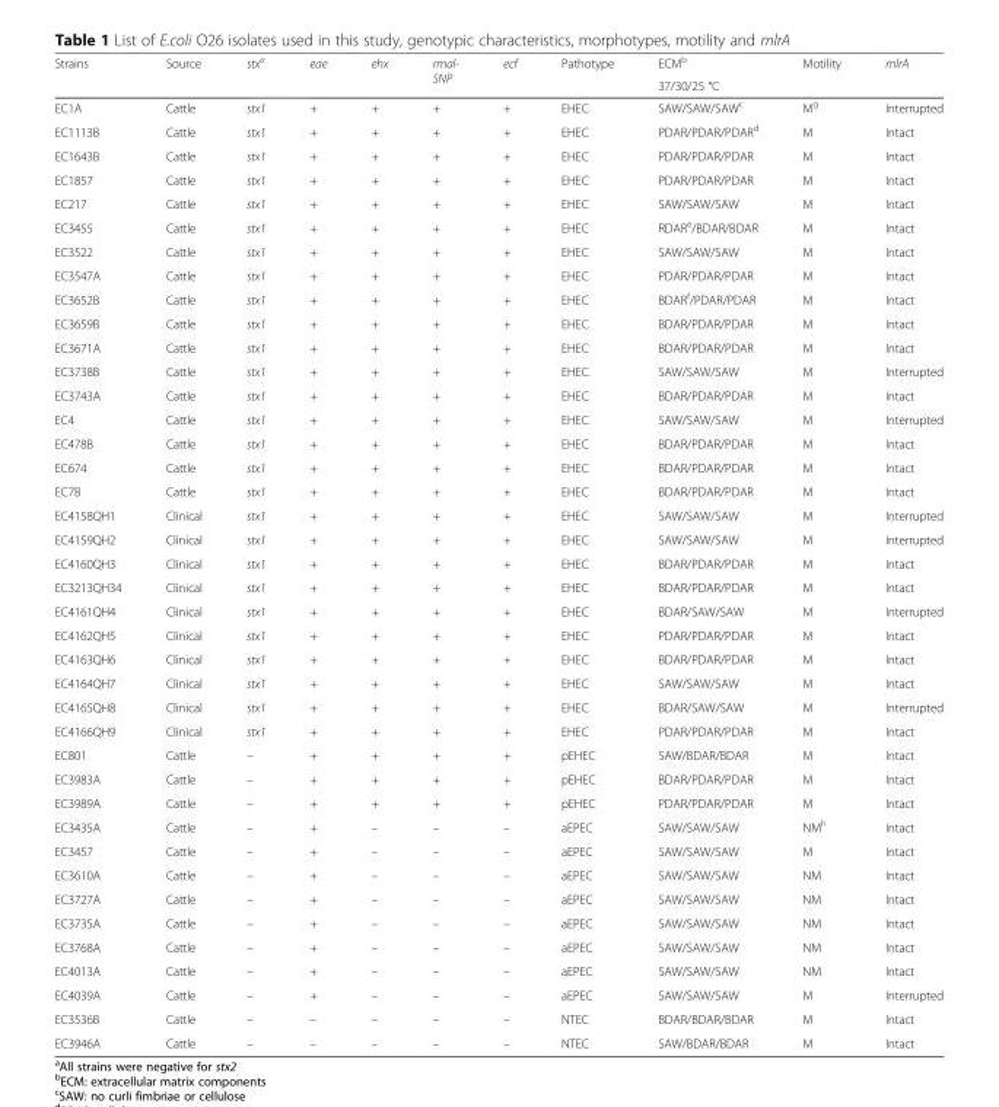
<table><thead><tr><td rowspan="2">Strains</td><td rowspan="2">Source</td><td rowspan="2">stx<sup>a</sup></td><td rowspan="2">eae</td><td rowspan="2">ehx</td><td rowspan="2">rmal- SNP</td><td rowspan="2">ecf</td><td rowspan="2">Pathotype</td><td rowspan="2">ECM<sup>b</sup> 37/30/25 °C</td><td rowspan="2">Motility</td><td rowspan="2">mlrA</td></tr><tr></tr></thead><tbody><tr><td>EC1A</td><td>Cattle</td><td>stx1</td><td>+</td><td>+</td><td>+</td><td>+</td><td>EHEC</td><td>SAW/SAW/SAW<sup>c</sup></td><td>M<sup>g</sup></td><td>Interrupted</td></tr><tr><td>EC1113B</td><td>Cattle</td><td>stx1</td><td>+</td><td>+</td><td>+</td><td>+</td><td>EHEC</td><td>PDAR/PDAR/PDAR<sup>d</sup></td><td>M</td><td>Intact</td></tr><tr><td>EC1643B</td><td>Cattle</td><td>stx1</td><td>+</td><td>+</td><td>+</td><td>+</td><td>EHEC</td><td>PDAR/PDAR/PDAR</td><td>M</td><td>Intact</td></tr><tr><td>EC1857</td><td>Cattle</td><td>stx1</td><td>+</td><td>+</td><td>+</td><td>+</td><td>EHEC</td><td>PDAR/PDAR/PDAR</td><td>M</td><td>Intact</td></tr><tr><td>EC217</td><td>Cattle</td><td>stx1</td><td>+</td><td>+</td><td>+</td><td>+</td><td>EHEC</td><td>SAW/SAW/SAW</td><td>M</td><td>Intact</td></tr><tr><td>EC3455</td><td>Cattle</td><td>stx1</td><td>+</td><td>+</td><td>+</td><td>+</td><td>EHEC</td><td>RDAR<sup>e</sup>/BDAR/BDAR</td><td>M</td><td>Intact</td></tr><tr><td>EC3522</td><td>Cattle</td><td>stx1</td><td>+</td><td>+</td><td>+</td><td>+</td><td>EHEC</td><td>SAW/SAW/SAW</td><td>M</td><td>Intact</td></tr><tr><td>EC3547A</td><td>Cattle</td><td>stx1</td><td>+</td><td>+</td><td>+</td><td>+</td><td>EHEC</td><td>PDAR/PDAR/PDAR</td><td>M</td><td>Intact</td></tr><tr><td>EC3652B</td><td>Cattle</td><td>stx1</td><td>+</td><td>+</td><td>+</td><td>+</td><td>EHEC</td><td>BDAR<sup>f</sup>/PDAR/PDAR</td><td>M</td><td>Intact</td></tr><tr><td>EC3659B</td><td>Cattle</td><td>stx1</td><td>+</td><td>+</td><td>+</td><td>+</td><td>EHEC</td><td>BDAR/PDAR/PDAR</td><td>M</td><td>Intact</td></tr><tr><td>EC3671A</td><td>Cattle</td><td>stx1</td><td>+</td><td>+</td><td>+</td><td>+</td><td>EHEC</td><td>BDAR/PDAR/PDAR</td><td>M</td><td>Intact</td></tr><tr><td>EC3738B</td><td>Cattle</td><td>stx1</td><td>+</td><td>+</td><td>+</td><td>+</td><td>EHEC</td><td>SAW/SAW/SAW</td><td>M</td><td>Interrupted</td></tr><tr><td>EC3743A</td><td>Cattle</td><td>stx1</td><td>+</td><td>+</td><td>+</td><td>+</td><td>EHEC</td><td>BDAR/PDAR/PDAR</td><td>M</td><td>Intact</td></tr><tr><td>EC4</td><td>Cattle</td><td>stx1</td><td>+</td><td>+</td><td>+</td><td>+</td><td>EHEC</td><td>SAW/SAW/SAW</td><td>M</td><td>Interrupted</td></tr><tr><td>EC478B</td><td>Cattle</td><td>stx1</td><td>+</td><td>+</td><td>+</td><td>+</td><td>EHEC</td><td>BDAR/PDAR/PDAR</td><td>M</td><td>Intact</td></tr><tr><td>EC674</td><td>Cattle</td><td>stx1</td><td>+</td><td>+</td><td>+</td><td>+</td><td>EHEC</td><td>BDAR/PDAR/PDAR</td><td>M</td><td>Intact</td></tr><tr><td>EC7B</td><td>Cattle</td><td>stx1</td><td>+</td><td>+</td><td>+</td><td>+</td><td>EHEC</td><td>BDAR/PDAR/PDAR</td><td>M</td><td>Intact</td></tr><tr><td>EC4158QH1</td><td>Clinical</td><td>stx1</td><td>+</td><td>+</td><td>+</td><td>+</td><td>EHEC</td><td>SAW/SAW/SAW</td><td>M</td><td>Interrupted</td></tr><tr><td>EC4159QH2</td><td>Clinical</td><td>stx1</td><td>+</td><td>+</td><td>+</td><td>+</td><td>EHEC</td><td>SAW/SAW/SAW</td><td>M</td><td>Interrupted</td></tr><tr><td>EC4160QH3</td><td>Clinical</td><td>stx1</td><td>+</td><td>+</td><td>+</td><td>+</td><td>EHEC</td><td>BDAR/PDAR/PDAR</td><td>M</td><td>Intact</td></tr><tr><td>EC3213QH34</td><td>Clinical</td><td>stx1</td><td>+</td><td>+</td><td>+</td><td>+</td><td>EHEC</td><td>BDAR/PDAR/PDAR</td><td>M</td><td>Intact</td></tr><tr><td>EC4161QH4</td><td>Clinical</td><td>stx1</td><td>+</td><td>+</td><td>+</td><td>+</td><td>EHEC</td><td>BDAR/SAW/SAW</td><td>M</td><td>Interrupted</td></tr><tr><td>EC4162QH5</td><td>Clinical</td><td>stx1</td><td>+</td><td>+</td><td>+</td><td>+</td><td>EHEC</td><td>PDAR/PDAR/PDAR</td><td>M</td><td>Intact</td></tr><tr><td>EC4163QH6</td><td>Clinical</td><td>stx1</td><td>+</td><td>+</td><td>+</td><td>+</td><td>EHEC</td><td>BDAR/PDAR/PDAR</td><td>M</td><td>Intact</td></tr><tr><td>EC4164QH7</td><td>Clinical</td><td>stx1</td><td>+</td><td>+</td><td>+</td><td>+</td><td>EHEC</td><td>SAW/SAW/SAW</td><td>M</td><td>Intact</td></tr><tr><td>EC4165QH8</td><td>Clinical</td><td>stx1</td><td>+</td><td>+</td><td>+</td><td>+</td><td>EHEC</td><td>BDAR/SAW/SAW</td><td>M</td><td>Interrupted</td></tr><tr><td>EC4166QH9</td><td>Clinical</td><td>stx1</td><td>+</td><td>+</td><td>+</td><td>+</td><td>EHEC</td><td>PDAR/PDAR/PDAR</td><td>M</td><td>Intact</td></tr><tr><td>EC801</td><td>Cattle</td><td>–</td><td>+</td><td>+</td><td>+</td><td>+</td><td>pEHEC</td><td>SAW/BDAR/BDAR</td><td>M</td><td>Intact</td></tr><tr><td>EC3983A</td><td>Cattle</td><td>–</td><td>+</td><td>+</td><td>+</td><td>+</td><td>pEHEC</td><td>BDAR/PDAR/PDAR</td><td>M</td><td>Intact</td></tr><tr><td>EC3989A</td><td>Cattle</td><td>–</td><td>+</td><td>+</td><td>+</td><td>+</td><td>pEHEC</td><td>PDAR/PDAR/PDAR</td><td>M</td><td>Intact</td></tr><tr><td>EC3435A</td><td>Cattle</td><td>–</td><td>+</td><td>–</td><td>–</td><td>–</td><td>aEPEC</td><td>SAW/SAW/SAW</td><td>NM<sup>h</sup></td><td>Intact</td></tr><tr><td>EC3457</td><td>Cattle</td><td>–</td><td>+</td><td>–</td><td>–</td><td>–</td><td>aEPEC</td><td>SAW/SAW/SAW</td><td>M</td><td>Intact</td></tr><tr><td>EC3610A</td><td>Cattle</td><td>–</td><td>+</td><td>–</td><td>–</td><td>–</td><td>aEPEC</td><td>SAW/SAW/SAW</td><td>NM</td><td>Intact</td></tr><tr><td>EC3727A</td><td>Cattle</td><td>–</td><td>+</td><td>–</td><td>–</td><td>–</td><td>aEPEC</td><td>SAW/SAW/SAW</td><td>NM</td><td>Intact</td></tr><tr><td>EC3735A</td><td>Cattle</td><td>–</td><td>+</td><td>–</td><td>–</td><td>–</td><td>aEPEC</td><td>SAW/SAW/SAW</td><td>NM</td><td>Intact</td></tr><tr><td>EC3768A</td><td>Cattle</td><td>–</td><td>+</td><td>–</td><td>–</td><td>–</td><td>aEPEC</td><td>SAW/SAW/SAW</td><td>NM</td><td>Intact</td></tr><tr><td>EC4013A</td><td>Cattle</td><td>–</td><td>+</td><td>–</td><td>–</td><td>–</td><td>aEPEC</td><td>SAW/SAW/SAW</td><td>NM</td><td>Intact</td></tr><tr><td>EC4039A</td><td>Cattle</td><td>–</td><td>+</td><td>–</td><td>–</td><td>–</td><td>aEPEC</td><td>SAW/SAW/SAW</td><td>M</td><td>Interrupted</td></tr><tr><td>EC3536B</td><td>Cattle</td><td>–</td><td>–</td><td>–</td><td>–</td><td>–</td><td>NTEC</td><td>BDAR/BDAR/BDAR</td><td>M</td><td>Intact</td></tr><tr><td>EC3946A</td><td>Cattle</td><td>–</td><td>–</td><td>–</td><td>–</td><td>–</td><td>NTEC</td><td>SAW/BDAR/BDAR</td><td>M</td><td>Intact</td></tr></tbody></table>